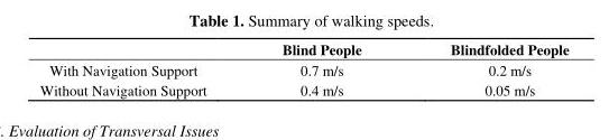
<table><thead><tr><td></td><td>Blind People</td><td>Blindfolded People</td></tr></thead><tbody><tr><td>With Navigation Support</td><td>0.7 m/s</td><td>0.2 m/s</td></tr><tr><td>Without Navigation Support</td><td>0.4 m/s</td><td>0.05 m/s</td></tr></tbody></table>